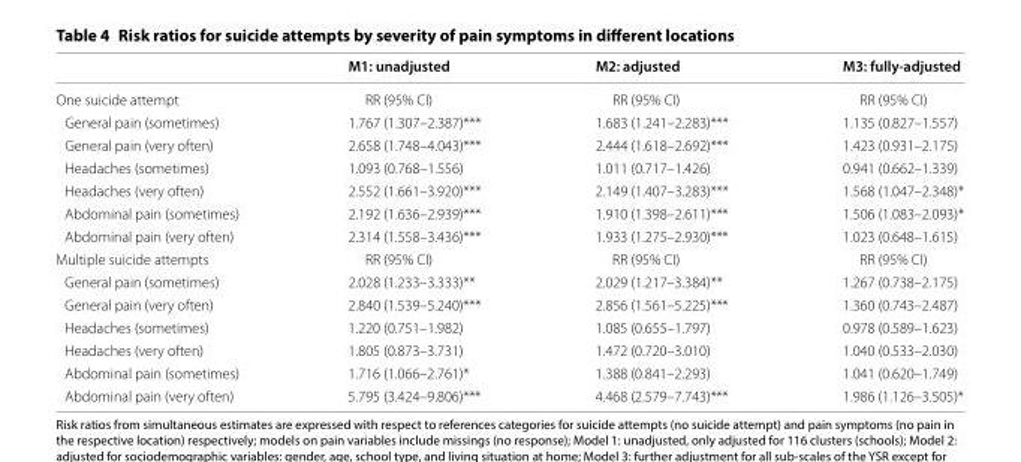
<table><thead><tr><td></td><td>M1: unadjusted</td><td>M2: adjusted</td><td>M3: fully-adjusted</td></tr></thead><tbody><tr><td>One suicide attempt</td><td>RR (95% CI)</td><td>RR (95% CI)</td><td>RR (95% CI)</td></tr><tr><td>General pain (sometimes)</td><td>1.767 (1.307–2.387)***</td><td>1.683 (1.241–2.283)***</td><td>1.135 (0.827–1.557)</td></tr><tr><td>General pain (very often)</td><td>2.658 (1.748–4.043)***</td><td>2.444 (1.618–2.692)***</td><td>1.423 (0.931–2.175)</td></tr><tr><td>Headaches (sometimes)</td><td>1.093 (0.768–1.556)</td><td>1.011 (0.717–1.426)</td><td>0.941 (0.662–1.339)</td></tr><tr><td>Headaches (very often)</td><td>2.552 (1.661–3.920)***</td><td>2.149 (1.407–3.283)***</td><td>1.568 (1.047–2.348)*</td></tr><tr><td>Abdominal pain (sometimes)</td><td>2.192 (1.636–2.939)***</td><td>1.910 (1.398–2.611)***</td><td>1.506 (1.083–2.093)*</td></tr><tr><td>Abdominal pain (very often)</td><td>2.314 (1.558–3.436)***</td><td>1.933 (1.275–2.930)***</td><td>1.023 (0.648–1.615)</td></tr><tr><td>Multiple suicide attempts</td><td>RR (95% CI)</td><td>RR (95% CI)</td><td>RR (95% CI)</td></tr><tr><td>General pain (sometimes)</td><td>2.028 (1.233–3.333)**</td><td>2.029 (1.217–3.384)**</td><td>1.267 (0.738–2.175)</td></tr><tr><td>General pain (very often)</td><td>2.840 (1.539–5.240)***</td><td>2.856 (1.561–5.225)***</td><td>1.360 (0.743–2.487)</td></tr><tr><td>Headaches (sometimes)</td><td>1.220 (0.751–1.982)</td><td>1.085 (0.655–1.797)</td><td>0.978 (0.589–1.623)</td></tr><tr><td>Headaches (very often)</td><td>1.805 (0.873–3.731)</td><td>1.472 (0.720–3.010)</td><td>1.040 (0.533–2.030)</td></tr><tr><td>Abdominal pain (sometimes)</td><td>1.716 (1.066–2.761)*</td><td>1.388 (0.841–2.293)</td><td>1.041 (0.620–1.749)</td></tr><tr><td>Abdominal pain (very often)</td><td>5.795 (3.424–9.806)***</td><td>4.468 (2.579–7.743)***</td><td>1.986 (1.126–3.505)*</td></tr></tbody></table>